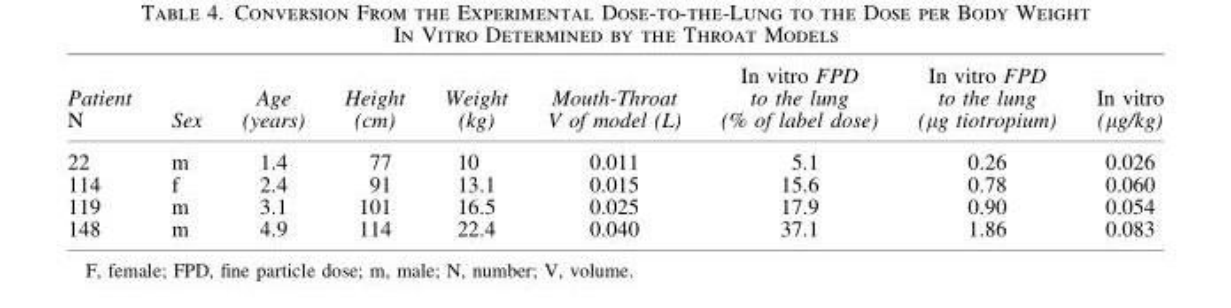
<table><thead><tr><td>Patient N</td><td>Sex</td><td>Age (years)</td><td>Height (cm)</td><td>Weight (kg)</td><td>Mouth-Throat V of model (L)</td><td>In vitro FPD to the lung (% of label dose)</td><td>In vitro FPD to the lung (μg tiotropium)</td><td>In vitro (μg/kg)</td></tr></thead><tbody><tr><td>22</td><td>m</td><td>1.4</td><td>77</td><td>10</td><td>0.011</td><td>5.1</td><td>0.26</td><td>0.026</td></tr><tr><td>114</td><td>f</td><td>2.4</td><td>91</td><td>13.1</td><td>0.015</td><td>15.6</td><td>0.78</td><td>0.060</td></tr><tr><td>119</td><td>m</td><td>3.1</td><td>101</td><td>16.5</td><td>0.025</td><td>17.9</td><td>0.90</td><td>0.054</td></tr><tr><td>148</td><td>m</td><td>4.9</td><td>114</td><td>22.4</td><td>0.040</td><td>37.1</td><td>1.86</td><td>0.083</td></tr></tbody></table>